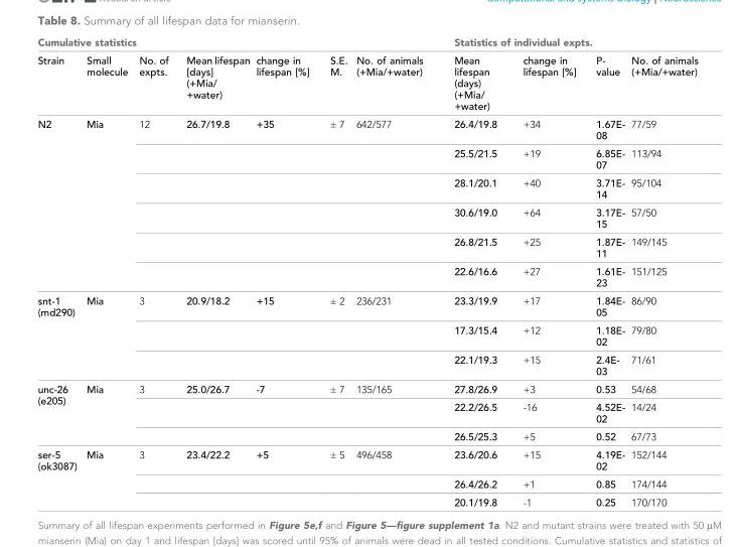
<table><thead><tr><td colspan="7">Cumulative statistics</td><td colspan="4">Statistics of individual expts.</td></tr><tr><td>Strain</td><td>Small molecule</td><td>No. of expts.</td><td>Mean lifespan [days] (+Mia/ +water)</td><td>change in lifespan [%]</td><td>S.E. M.</td><td>No. of animals (+Mia/+water)</td><td>Mean lifespan (days) (+Mia/ +water)</td><td>change in lifespan [%]</td><td>P- value</td><td>No. of animals (+Mia/+water)</td></tr></thead><tbody><tr><td rowspan="6">N2</td><td rowspan="6">Mia</td><td>12</td><td>26.7/19.8</td><td>+35</td><td>± 7</td><td>642/577</td><td>26.4/19.8</td><td>+34</td><td>1.67E- 08</td><td>77/59</td></tr><tr><td></td><td></td><td></td><td></td><td></td><td>25.5/21.5</td><td>+19</td><td>6.85E- 07</td><td>113/94</td></tr><tr><td></td><td></td><td></td><td></td><td></td><td>28.1/20.1</td><td>+40</td><td>3.71E- 14</td><td>95/104</td></tr><tr><td></td><td></td><td></td><td></td><td></td><td>30.6/19.0</td><td>+64</td><td>3.17E- 15</td><td>57/50</td></tr><tr><td></td><td></td><td></td><td></td><td></td><td>26.8/21.5</td><td>+25</td><td>1.87E- 11</td><td>149/145</td></tr><tr><td></td><td></td><td></td><td></td><td></td><td>22.6/16.6</td><td>+27</td><td>1.61E- 23</td><td>151/125</td></tr><tr><td rowspan="3">snt-1 (md290)</td><td rowspan="3">Mia</td><td>3</td><td>20.9/18.2</td><td>+15</td><td>± 2</td><td>236/231</td><td>23.3/19.9</td><td>+17</td><td>1.84E- 05</td><td>86/90</td></tr><tr><td></td><td></td><td></td><td></td><td></td><td>17.3/15.4</td><td>+12</td><td>1.18E- 02</td><td>79/80</td></tr><tr><td></td><td></td><td></td><td></td><td></td><td>22.1/19.3</td><td>+15</td><td>2.4E- 03</td><td>71/61</td></tr><tr><td rowspan="3">unc-26 (e205)</td><td rowspan="3">Mia</td><td>3</td><td>25.0/26.7</td><td>-7</td><td>± 7</td><td>135/165</td><td>27.8/26.9</td><td>+3</td><td>0.53</td><td>54/68</td></tr><tr><td></td><td></td><td></td><td></td><td></td><td>22.2/26.5</td><td>-16</td><td>4.52E- 02</td><td>14/24</td></tr><tr><td></td><td></td><td></td><td></td><td></td><td>26.5/25.3</td><td>+5</td><td>0.52</td><td>67/73</td></tr><tr><td rowspan="3">ser-5 (ok3087)</td><td rowspan="3">Mia</td><td>3</td><td>23.4/22.2</td><td>+5</td><td>± 5</td><td>496/458</td><td>23.6/20.6</td><td>+15</td><td>4.19E- 02</td><td>152/144</td></tr><tr><td></td><td></td><td></td><td></td><td></td><td>26.4/26.2</td><td>+1</td><td>0.85</td><td>174/144</td></tr><tr><td></td><td></td><td></td><td></td><td></td><td>20.1/19.8</td><td>-1</td><td>0.25</td><td>170/170</td></tr></tbody></table>